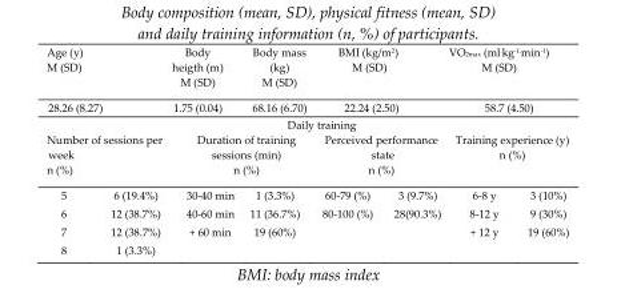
<table><thead><tr><td colspan="2">Age (y) M (SD)</td><td>Body heigth (m) M (SD)</td><td>Body mass (kg) M (SD)</td><td colspan="2">BMI (kg/m<sup>2</sup>) M (SD)</td><td colspan="2">VO2max (ml.kg-1.min-1) M (SD)</td></tr></thead><tbody><tr><td colspan="2">28.26 (8.27)</td><td>1.75 (0.04)</td><td>68.16 (6.70)</td><td colspan="2">22.24 (2.50)</td><td colspan="2">58.7 (4.50)</td></tr><tr><td colspan="8">Daily training</td></tr><tr><td colspan="2">Number of sessions per week n (%)</td><td colspan="2">Duration of training sessions (min) n (%)</td><td colspan="2">Perceived performance state n (%)</td><td colspan="2">Training experience (y) n (%)</td></tr><tr><td>5</td><td>6 (19.4%)</td><td>30-40 min</td><td>1 (3.3%)</td><td>60-79 (%)</td><td>3 (9.7%)</td><td>6-8 y</td><td>3 (10%)</td></tr><tr><td>6</td><td>12 (38.7%)</td><td>40-60 min</td><td>11 (36.7%)</td><td>80-100 (%)</td><td>28(90.3%)</td><td>8-12 y</td><td>9 (30%)</td></tr><tr><td>7</td><td>12 (38.7%)</td><td>+ 60 min</td><td>19 (60%)</td><td></td><td></td><td>+ 12 y</td><td>19 (60%)</td></tr><tr><td>8</td><td>1 (3.3%)</td><td></td><td></td><td></td><td></td><td></td><td></td></tr></tbody></table>